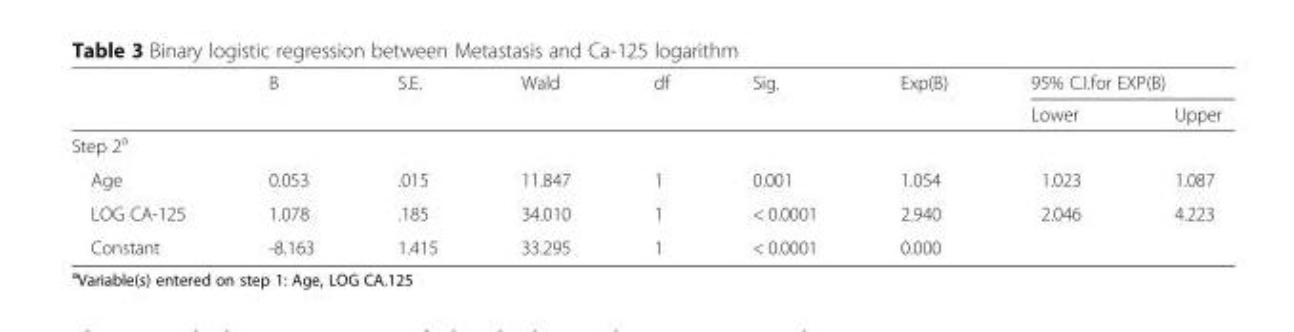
<table><thead><tr><td rowspan="2"></td><td rowspan="2">B</td><td rowspan="2">S.E.</td><td rowspan="2">Wald</td><td rowspan="2">df</td><td rowspan="2">Sig.</td><td rowspan="2">Exp(B)</td><td colspan="2">95% C.I.for EXP(B)</td></tr><tr><td>Lower</td><td>Upper</td></tr></thead><tbody><tr><td colspan="9">Step 2<sup>a</sup></td></tr><tr><td>Age</td><td>0.053</td><td>.015</td><td>11.847</td><td>1</td><td>0.001</td><td>1.054</td><td>1.023</td><td>1.087</td></tr><tr><td>LOG CA-125</td><td>1.078</td><td>.185</td><td>34.010</td><td>1</td><td>&lt; 0.0001</td><td>2.940</td><td>2.046</td><td>4.223</td></tr><tr><td>Constant</td><td>-8.163</td><td>1.415</td><td>33.295</td><td>1</td><td>&lt; 0.0001</td><td>0.000</td><td></td><td></td></tr></tbody></table>